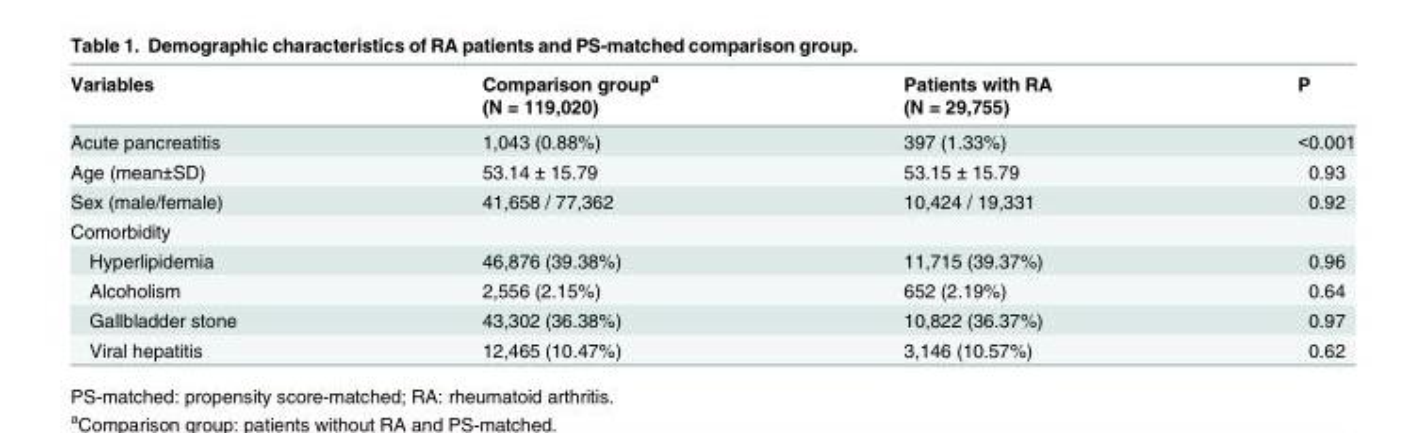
<table><thead><tr><td rowspan="2">Variables</td><td rowspan="2">Comparison group<sup>a</sup> (N = 119,020)</td><td rowspan="2">Patients with RA (N = 29,755)</td><td rowspan="2">P</td></tr><tr></tr></thead><tbody><tr><td>Acute pancreatitis</td><td>1,043 (0.88%)</td><td>397 (1.33%)</td><td>&lt;0.001</td></tr><tr><td>Age (mean±SD)</td><td>53.14 ± 15.79</td><td>53.15 ± 15.79</td><td>0.93</td></tr><tr><td>Sex (male/female)</td><td>41,658 / 77,362</td><td>10,424 / 19,331</td><td>0.92</td></tr><tr><td colspan="4">Comorbidity</td></tr><tr><td>Hyperlipidemia</td><td>46,876 (39.38%)</td><td>11,715 (39.37%)</td><td>0.96</td></tr><tr><td>Alcoholism</td><td>2,556 (2.15%)</td><td>652 (2.19%)</td><td>0.64</td></tr><tr><td>Gallbladder stone</td><td>43,302 (36.38%)</td><td>10,822 (36.37%)</td><td>0.97</td></tr><tr><td>Viral hepatitis</td><td>12,465 (10.47%)</td><td>3,146 (10.57%)</td><td>0.62</td></tr></tbody></table>